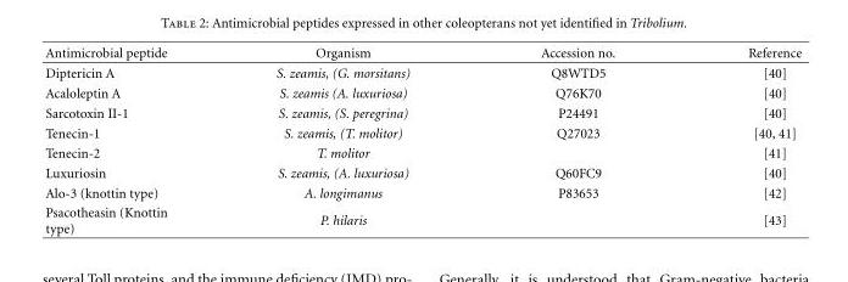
<table><thead><tr><td>Antimicrobial peptide</td><td>Organism</td><td>Accession no.</td><td>Reference</td></tr></thead><tbody><tr><td>Diptericin A</td><td>S. zeamis, (G. morsitans)</td><td>Q8WTD5</td><td>[40]</td></tr><tr><td>Acaloleptin A</td><td>S. zeamis (A. luxuriosa)</td><td>Q76K70</td><td>[40]</td></tr><tr><td>Sarcotoxin II-1</td><td>S. zeamis, (S. peregrina)</td><td>P24491</td><td>[40]</td></tr><tr><td>Tenecin-1</td><td>S. zeamis, (T. molitor)</td><td>Q27023</td><td>[40, 41]</td></tr><tr><td>Tenecin-2</td><td>T. molitor</td><td></td><td>[41]</td></tr><tr><td>Luxuriosin</td><td>S. zeamis, (A. luxuriosa)</td><td>Q60FC9</td><td>[40]</td></tr><tr><td>Alo-3 (knottin type)</td><td>A. longimanus</td><td>P83653</td><td>[42]</td></tr><tr><td>Psacotheasin (Knottin type)</td><td>P. hilaris</td><td></td><td>[43]</td></tr></tbody></table>